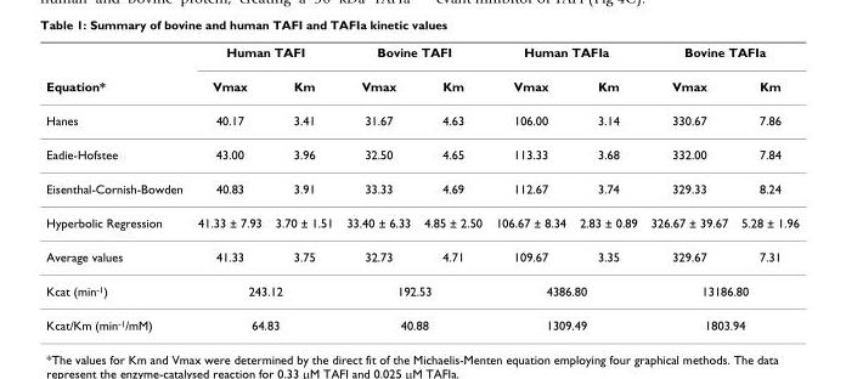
<table><thead><tr><td rowspan="2">Equation*</td><td colspan="2">Human TAFI</td><td colspan="2">Bovine TAFI</td><td colspan="2">Human TAFIa</td><td colspan="2">Bovine TAFIa</td></tr><tr><td>Vmax</td><td>Km</td><td>Vmax</td><td>Km</td><td>Vmax</td><td>Km</td><td>Vmax</td><td>Km</td></tr></thead><tbody><tr><td>Hanes</td><td>40.17</td><td>3.41</td><td>31.67</td><td>4.63</td><td>106.00</td><td>3.14</td><td>330.67</td><td>7.86</td></tr><tr><td>Eadie-Hofstee</td><td>43.00</td><td>3.96</td><td>32.50</td><td>4.65</td><td>113.33</td><td>3.68</td><td>332.00</td><td>7.84</td></tr><tr><td>Eisenthal-Cornish-Bowden</td><td>40.83</td><td>3.91</td><td>33.33</td><td>4.69</td><td>112.67</td><td>3.74</td><td>329.33</td><td>8.24</td></tr><tr><td>Hyperbolic Regression</td><td>41.33 ± 7.93</td><td>3.70 ± 1.51</td><td>33.40 ± 6.33</td><td>4.85 ± 2.50</td><td>106.67 ± 8.34</td><td>2.83 ± 0.89</td><td>326.67 ± 39.67</td><td>5.28 ± 1.96</td></tr><tr><td>Average values</td><td>41.33</td><td>3.75</td><td>32.73</td><td>4.71</td><td>109.67</td><td>3.35</td><td>329.67</td><td>7.31</td></tr><tr><td>Kcat (min<sup>-1</sup>)</td><td colspan="2">243.12</td><td colspan="2">192.53</td><td colspan="2">4386.80</td><td colspan="2">13186.80</td></tr><tr><td>Kcat/Km (min<sup>-1</sup>/mM)</td><td colspan="2">64.83</td><td colspan="2">40.88</td><td colspan="2">1309.49</td><td colspan="2">1803.94</td></tr></tbody></table>